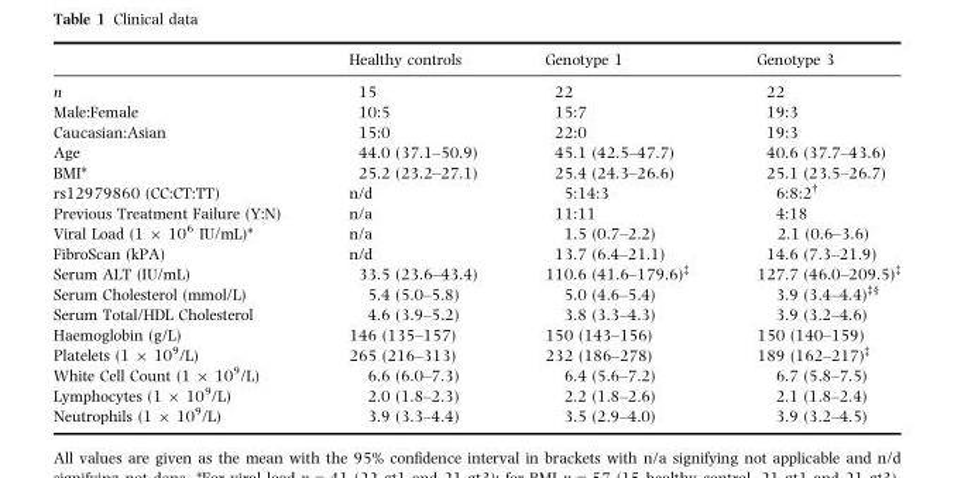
<table><thead><tr><td></td><td>Healthy controls</td><td>Genotype 1</td><td>Genotype 3</td></tr></thead><tbody><tr><td>n</td><td>15</td><td>22</td><td>22</td></tr><tr><td>Male:Female</td><td>10:5</td><td>15:7</td><td>19:3</td></tr><tr><td>Caucasian:Asian</td><td>15:0</td><td>22:0</td><td>19:3</td></tr><tr><td>Age</td><td>44.0 (37.1–50.9)</td><td>45.1 (42.5–47.7)</td><td>40.6 (37.7–43.6)</td></tr><tr><td>BMI*</td><td>25.2 (23.2–27.1)</td><td>25.4 (24.3–26.6)</td><td>25.1 (23.5–26.7)</td></tr><tr><td>rs12979860 (CC:CT:TT)</td><td>n/d</td><td>5:14:3</td><td>6:8:2†</td></tr><tr><td>Previous Treatment Failure (Y:N)</td><td>n/a</td><td>11:11</td><td>4:18</td></tr><tr><td>Viral Load (1 × 10<sup>6</sup> IU/mL)*</td><td>n/a</td><td>1.5 (0.7–2.2)</td><td>2.1 (0.6–3.6)</td></tr><tr><td>FibroScan (kPA)</td><td>n/d</td><td>13.7 (6.4–21.1)</td><td>14.6 (7.3–21.9)</td></tr><tr><td>Serum ALT (IU/mL)</td><td>33.5 (23.6–43.4)</td><td>110.6 (41.6–179.6)‡</td><td>127.7 (46.0–209.5)‡</td></tr><tr><td>Serum Cholesterol (mmol/L)</td><td>5.4 (5.0–5.8)</td><td>5.0 (4.6–5.4)</td><td>3.9 (3.4–4.4)‡§</td></tr><tr><td>Serum Total/HDL Cholesterol</td><td>4.6 (3.9–5.2)</td><td>3.8 (3.3–4.3)</td><td>3.9 (3.2–4.6)</td></tr><tr><td>Haemoglobin (g/L)</td><td>146 (135–157)</td><td>150 (143–156)</td><td>150 (140–159)</td></tr><tr><td>Platelets (1 × 10<sup>9</sup>/L)</td><td>265 (216–313)</td><td>232 (186–278)</td><td>189 (162–217)‡</td></tr><tr><td>White Cell Count (1 × 10<sup>9</sup>/L)</td><td>6.6 (6.0–7.3)</td><td>6.4 (5.6–7.2)</td><td>6.7 (5.8–7.5)</td></tr><tr><td>Lymphocytes (1 × 10<sup>9</sup>/L)</td><td>2.0 (1.8–2.3)</td><td>2.2 (1.8–2.6)</td><td>2.1 (1.8–2.4)</td></tr><tr><td>Neutrophils (1 × 10<sup>9</sup>/L)</td><td>3.9 (3.3–4.4)</td><td>3.5 (2.9–4.0)</td><td>3.9 (3.2–4.5)</td></tr></tbody></table>